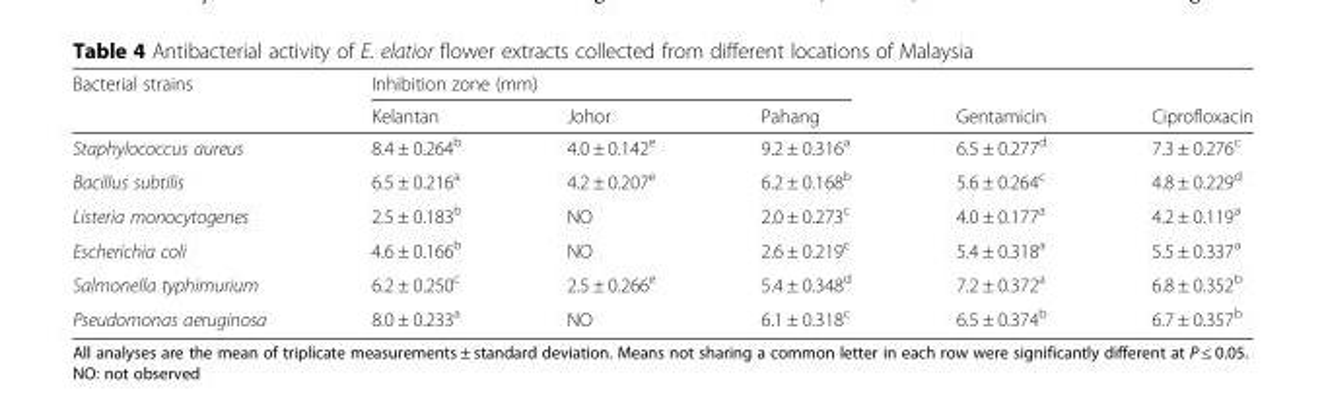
<table><thead><tr><td rowspan="2">Bacterial strains</td><td colspan="3">Inhibition zone (mm)</td><td rowspan="2">Gentamicin</td><td rowspan="2">Ciprofloxacin</td></tr><tr><td>Kelantan</td><td>Johor</td><td>Pahang</td></tr></thead><tbody><tr><td>Staphylococcus aureus</td><td>8.4 ± 0.264<sup>b</sup></td><td>4.0 ± 0.142<sup>e</sup></td><td>9.2 ± 0.316<sup>a</sup></td><td>6.5 ± 0.277<sup>d</sup></td><td>7.3 ± 0.276<sup>c</sup></td></tr><tr><td>Bacillus subtilis</td><td>6.5 ± 0.216<sup>a</sup></td><td>4.2 ± 0.207<sup>e</sup></td><td>6.2 ± 0.168<sup>b</sup></td><td>5.6 ± 0.264<sup>c</sup></td><td>4.8 ± 0.229<sup>d</sup></td></tr><tr><td>Listeria monocytogenes</td><td>2.5 ± 0.183<sup>b</sup></td><td>NO</td><td>2.0 ± 0.273<sup>c</sup></td><td>4.0 ± 0.177<sup>a</sup></td><td>4.2 ± 0.119<sup>a</sup></td></tr><tr><td>Escherichia coli</td><td>4.6 ± 0.166<sup>b</sup></td><td>NO</td><td>2.6 ± 0.219<sup>c</sup></td><td>5.4 ± 0.318<sup>a</sup></td><td>5.5 ± 0.337<sup>a</sup></td></tr><tr><td>Salmonella typhimurium</td><td>6.2 ± 0.250<sup>c</sup></td><td>2.5 ± 0.266<sup>e</sup></td><td>5.4 ± 0.348<sup>d</sup></td><td>7.2 ± 0.372<sup>a</sup></td><td>6.8 ± 0.352<sup>b</sup></td></tr><tr><td>Pseudomonas aeruginosa</td><td>8.0 ± 0.233<sup>a</sup></td><td>NO</td><td>6.1 ± 0.318<sup>c</sup></td><td>6.5 ± 0.374<sup>b</sup></td><td>6.7 ± 0.357<sup>b</sup></td></tr></tbody></table>